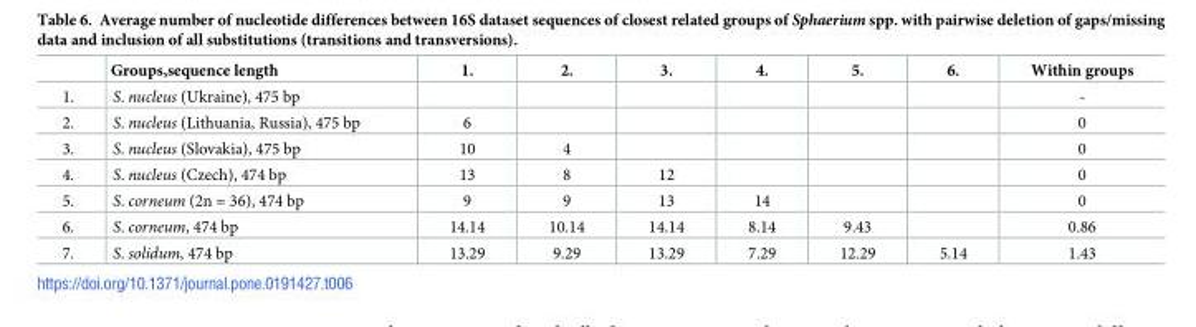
<table><thead><tr><td></td><td>Groups,sequence length</td><td>1.</td><td>2.</td><td>3.</td><td>4.</td><td>5.</td><td>6.</td><td>Within groups</td></tr></thead><tbody><tr><td>1.</td><td>S. nucleus (Ukraine), 475 bp</td><td></td><td></td><td></td><td></td><td></td><td></td><td>-</td></tr><tr><td>2.</td><td>S. nucleus (Lithuania, Russia), 475 bp</td><td>6</td><td></td><td></td><td></td><td></td><td></td><td>0</td></tr><tr><td>3.</td><td>S. nucleus (Slovakia), 475 bp</td><td>10</td><td>4</td><td></td><td></td><td></td><td></td><td>0</td></tr><tr><td>4.</td><td>S. nucleus (Czech), 474 bp</td><td>13</td><td>8</td><td>12</td><td></td><td></td><td></td><td>0</td></tr><tr><td>5.</td><td>S. corneum (2n = 36), 474 bp</td><td>9</td><td>9</td><td>13</td><td>14</td><td></td><td></td><td>0</td></tr><tr><td>6.</td><td>S. corneum, 474 bp</td><td>14.14</td><td>10.14</td><td>14.14</td><td>8.14</td><td>9.43</td><td></td><td>0.86</td></tr><tr><td>7.</td><td>S. solidum, 474 bp</td><td>13.29</td><td>9.29</td><td>13.29</td><td>7.29</td><td>12.29</td><td>5.14</td><td>1.43</td></tr></tbody></table>